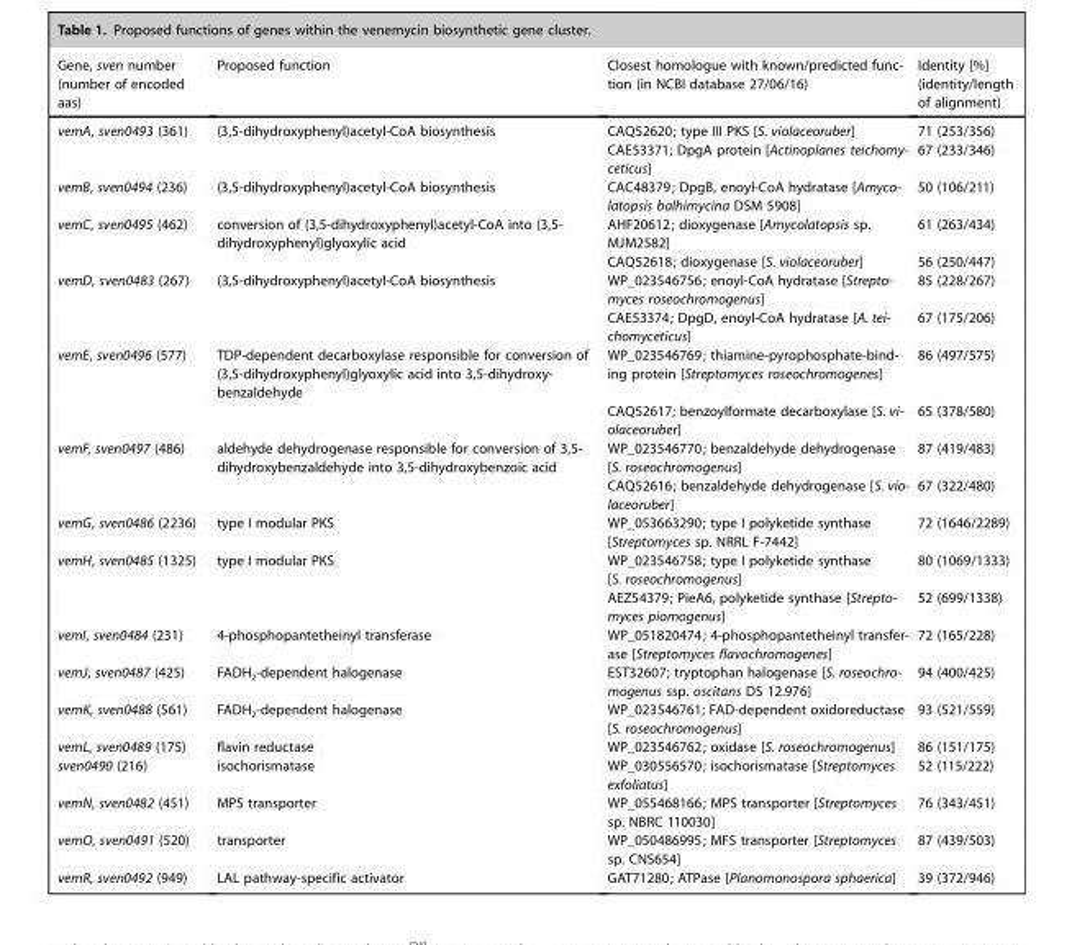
<table><thead><tr><td>Gene, sven number (number of encoded aas)</td><td>Proposed function</td><td>Closest homologue with known/predicted func- tion (in NCBI database 27/06/16)</td><td>Identity [%] (identity/length of alignment)</td></tr></thead><tbody><tr><td rowspan="2">vemA, sven0493 (361)</td><td>(3,5-dihydroxyphenyl)acetyl-CoA biosynthesis</td><td>CAQ52620; type III PKS [S. violaceoruber]</td><td>71 (253/356)</td></tr><tr><td></td><td>CAE53371; DpgA protein [Actinoplanes teichomy- ceticus]</td><td>67 (233/346)</td></tr><tr><td>vemB, sven0494 (236)</td><td>(3,5-dihydroxyphenyl)acetyl-CoA biosynthesis</td><td>CAC48379; DpgB, enoyl-CoA hydratase [Amyco- latopsis balhimycina DSM 5908]</td><td>50 (106/211)</td></tr><tr><td rowspan="2">vemC, sven0495 (462)</td><td>conversion of (3,5-dihydroxyphenyl)acetyl-CoA into (3,5- dihydroxyphenyl)glyoxylic acid</td><td>AHF20612; dioxygenase [Amycolatopsis sp. MJM2582]</td><td>61 (263/434)</td></tr><tr><td></td><td>CAQ52618; dioxygenase [S. violaceoruber]</td><td>56 (250/447)</td></tr><tr><td rowspan="2">vemD, sven0483 (267)</td><td>(3,5-dihydroxyphenyl)acetyl-CoA biosynthesis</td><td>WP_023546756; enoyl-CoA hydratase [Strepto- myces roseochromogenus]</td><td>85 (228/267)</td></tr><tr><td></td><td>CAE53374; DpgD, enoyl-CoA hydratase [A. tei- chomyceticus]</td><td>67 (175/206)</td></tr><tr><td rowspan="2">vemE, sven0496 (577)</td><td>TDP-dependent decarboxylase responsible for conversion of (3,5-dihydroxyphenyl)glyoxylic acid into 3,5-dihydroxy- benzaldehyde</td><td>WP_023546769; thiamine-pyrophosphate-bind- ing protein [Streptomyces roseochromogenes]</td><td>86 (497/575)</td></tr><tr><td></td><td>CAQ52617; benzoylformate decarboxylase [S. vi- olaceoruber]</td><td>65 (378/580)</td></tr><tr><td rowspan="2">vemF, sven0497 (486)</td><td>aldehyde dehydrogenase responsible for conversion of 3,5- dihydroxybenzaldehyde into 3,5-dihydroxybenzoic acid</td><td>WP_023546770; benzaldehyde dehydrogenase [S. roseochromogenus]</td><td>87 (419/483)</td></tr><tr><td></td><td>CAQ52616; benzaldehyde dehydrogenase [S. vio- laceoruber]</td><td>67 (322/480)</td></tr><tr><td>vemG, sven0486 (2236)</td><td>type I modular PKS</td><td>WP_053663290; type I polyketide synthase [Streptomyces sp. NRRL F-7442]</td><td>72 (1646/2289)</td></tr><tr><td rowspan="2">vemH, sven0485 (1325)</td><td>type I modular PKS</td><td>WP_023546758; type I polyketide synthase [S. roseochromogenus]</td><td>80 (1069/1333)</td></tr><tr><td></td><td>AEZ54379; PieA6, polyketide synthase [Strepto- myces piomogenus]</td><td>52 (699/1338)</td></tr><tr><td>vemI, sven0484 (231)</td><td>4-phosphopantetheinyl transferase</td><td>WP_051820474; 4-phosphopantetheinyl transfer- ase [Streptomyces flavochromogenes]</td><td>72 (165/228)</td></tr><tr><td>vemJ, sven0487 (425)</td><td>FADH<sub>2</sub>-dependent halogenase</td><td>EST32607; tryptophan halogenase [S. roseochro- mogenus ssp. oscitans DS 12.976]</td><td>94 (400/425)</td></tr><tr><td>vemK, sven0488 (561)</td><td>FADH<sub>2</sub>-dependent halogenase</td><td>WP_023546761; FAD-dependent oxidoreductase [S. roseochromogenus]</td><td>93 (521/559)</td></tr><tr><td>vemL, sven0489 (175)</td><td>flavin reductase</td><td>WP_023546762; oxidase [S. roseochromogenus]</td><td>86 (151/175)</td></tr><tr><td>sven0490 (216)</td><td>isochorismatase</td><td>WP_030556570; isochorismatase [Streptomyces exfoliatus]</td><td>52 (115/222)</td></tr><tr><td>vemN, sven0482 (451)</td><td>MPS transporter</td><td>WP_055468166; MPS transporter [Streptomyces sp. NBRC 110030]</td><td>76 (343/451)</td></tr><tr><td>vemO, sven0491 (520)</td><td>transporter</td><td>WP_050486995; MFS transporter [Streptomyces sp. CNS654]</td><td>87 (439/503)</td></tr><tr><td>vemR, sven0492 (949)</td><td>LAL pathway-specific activator</td><td>GAT71280; ATPase [Planomonospora sphaerica]</td><td>39 (372/946)</td></tr></tbody></table>